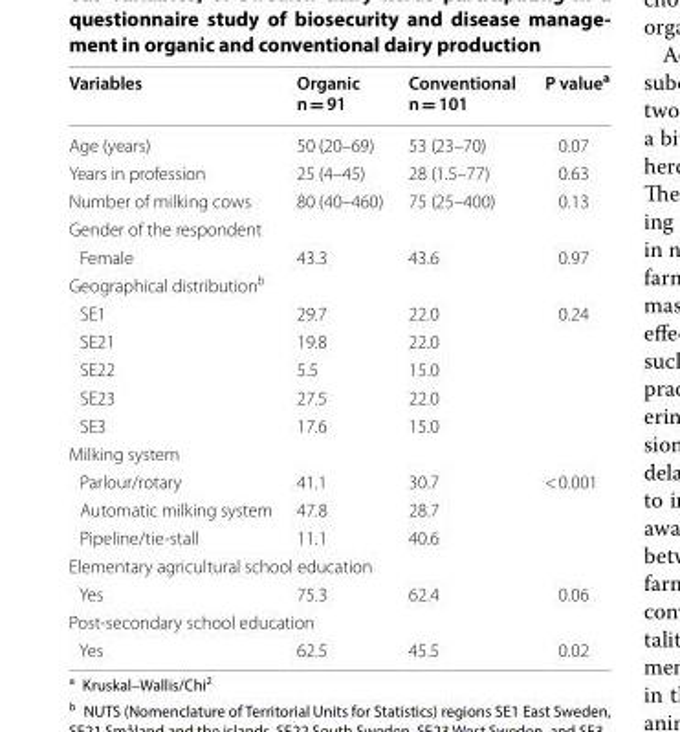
<table><thead><tr><td>Variables</td><td>Organic n = 91</td><td>Conventional n = 101</td><td>P value<sup>a</sup></td></tr></thead><tbody><tr><td>Age (years)</td><td>50 (20–69)</td><td>53 (23–70)</td><td>0.07</td></tr><tr><td>Years in profession</td><td>25 (4–45)</td><td>28 (1.5–77)</td><td>0.63</td></tr><tr><td>Number of milking cows</td><td>80 (40–460)</td><td>75 (25–400)</td><td>0.13</td></tr><tr><td colspan="4">Gender of the respondent</td></tr><tr><td>Female</td><td>43.3</td><td>43.6</td><td>0.97</td></tr><tr><td colspan="4">Geographical distribution<sup>b</sup></td></tr><tr><td>SE1</td><td>29.7</td><td>22.0</td><td>0.24</td></tr><tr><td>SE21</td><td>19.8</td><td>22.0</td><td></td></tr><tr><td>SE22</td><td>5.5</td><td>15.0</td><td></td></tr><tr><td>SE23</td><td>27.5</td><td>22.0</td><td></td></tr><tr><td>SE3</td><td>17.6</td><td>15.0</td><td></td></tr><tr><td colspan="4">Milking system</td></tr><tr><td>Parlour/rotary</td><td>41.1</td><td>30.7</td><td>&lt; 0.001</td></tr><tr><td>Automatic milking system</td><td>47.8</td><td>28.7</td><td></td></tr><tr><td>Pipeline/tie-stall</td><td>11.1</td><td>40.6</td><td></td></tr><tr><td colspan="4">Elementary agricultural school education</td></tr><tr><td>Yes</td><td>75.3</td><td>62.4</td><td>0.06</td></tr><tr><td colspan="4">Post-secondary school education</td></tr><tr><td>Yes</td><td>62.5</td><td>45.5</td><td>0.02</td></tr></tbody></table>